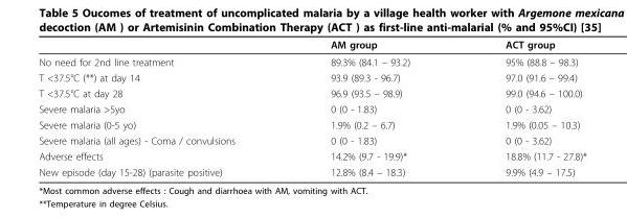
<table><thead><tr><td></td><td>AM group</td><td>ACT group</td></tr></thead><tbody><tr><td>No need for 2nd line treatment</td><td>89.3% (84.1 – 93.2)</td><td>95% (88.8 – 98.3)</td></tr><tr><td>T &lt;37.5°C (**) at day 14</td><td>93.9 (89.3 - 96.7)</td><td>97.0 (91.6 – 99.4)</td></tr><tr><td>T &lt;37.5°C at day 28</td><td>96.9 (93.5 – 98.9)</td><td>99.0 (94.6 – 100.0)</td></tr><tr><td>Severe malaria &gt;5yo</td><td>0 (0 - 1.83)</td><td>0 (0 - 3.62)</td></tr><tr><td>Severe malaria (0-5 yo)</td><td>1.9% (0.2 – 6.7)</td><td>1.9% (0.05 – 10.3)</td></tr><tr><td>Severe malaria (all ages) - Coma / convulsions</td><td>0 (0 - 1.83)</td><td>0 (0 - 3.62)</td></tr><tr><td>Adverse effects</td><td>14.2% (9.7 - 19.9)*</td><td>18.8% (11.7 - 27.8)*</td></tr><tr><td>New episode (day 15-28) (parasite positive)</td><td>12.8% (8.4 – 18.3)</td><td>9.9% (4.9 – 17.5)</td></tr></tbody></table>